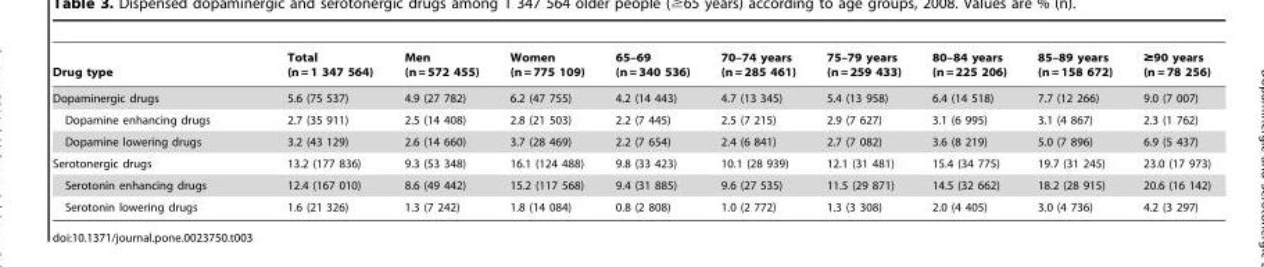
<table><thead><tr><td>Drug type</td><td>Total (n = 1 347 564)</td><td>Men (n = 572 455)</td><td>Women (n = 775 109)</td><td>65–69 (n = 340 536)</td><td>70–74 years (n = 285 461)</td><td>75–79 years (n = 259 433)</td><td>80–84 years (n = 225 206)</td><td>85–89 years (n = 158 672)</td><td>≥90 years (n = 78 256)</td></tr></thead><tbody><tr><td>Dopaminergic drugs</td><td>5.6 (75 537)</td><td>4.9 (27 782)</td><td>6.2 (47 755)</td><td>4.2 (14 443)</td><td>4.7 (13 345)</td><td>5.4 (13 958)</td><td>6.4 (14 518)</td><td>7.7 (12 266)</td><td>9.0 (7 007)</td></tr><tr><td>Dopamine enhancing drugs</td><td>2.7 (35 911)</td><td>2.5 (14 408)</td><td>2.8 (21 503)</td><td>2.2 (7 445)</td><td>2.5 (7 215)</td><td>2.9 (7 627)</td><td>3.1 (6 995)</td><td>3.1 (4 867)</td><td>2.3 (1 762)</td></tr><tr><td>Dopamine lowering drugs</td><td>3.2 (43 129)</td><td>2.6 (14 660)</td><td>3.7 (28 469)</td><td>2.2 (7 654)</td><td>2.4 (6 841)</td><td>2.7 (7 082)</td><td>3.6 (8 219)</td><td>5.0 (7 896)</td><td>6.9 (5 437)</td></tr><tr><td>Serotonergic drugs</td><td>13.2 (177 836)</td><td>9.3 (53 348)</td><td>16.1 (124 488)</td><td>9.8 (33 423)</td><td>10.1 (28 939)</td><td>12.1 (31 481)</td><td>15.4 (34 775)</td><td>19.7 (31 245)</td><td>23.0 (17 973)</td></tr><tr><td>Serotonin enhancing drugs</td><td>12.4 (167 010)</td><td>8.6 (49 442)</td><td>15.2 (117 568)</td><td>9.4 (31 885)</td><td>9.6 (27 535)</td><td>11.5 (29 871)</td><td>14.5 (32 662)</td><td>18.2 (28 915)</td><td>20.6 (16 142)</td></tr><tr><td>Serotonin lowering drugs</td><td>1.6 (21 326)</td><td>1.3 (7 242)</td><td>1.8 (14 084)</td><td>0.8 (2 808)</td><td>1.0 (2 772)</td><td>1.3 (3 308)</td><td>2.0 (4 405)</td><td>3.0 (4 736)</td><td>4.2 (3 297)</td></tr></tbody></table>